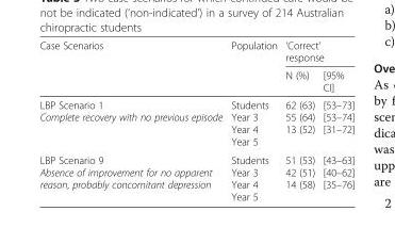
<table><thead><tr><td rowspan="2">Case Scenarios</td><td rowspan="2">Population</td><td colspan="2">‘Correct’ response</td></tr><tr><td>N (%)</td><td>[95% CI]</td></tr></thead><tbody><tr><td>LBP Scenario 1 Complete recovery with no previous episode</td><td>Students Year 3 Year 4 Year 5</td><td>62 (63) 55 (64) 13 (52)</td><td>[53–73] [53–74] [31–72]</td></tr><tr><td>LBP Scenario 9 Absence of improvement for no apparent reason, probably concomitant depression</td><td>Students Year 3 Year 4 Year 5</td><td>51 (53) 42 (51) 14 (58)</td><td>[43–63] [40–62] [35–76]</td></tr></tbody></table>